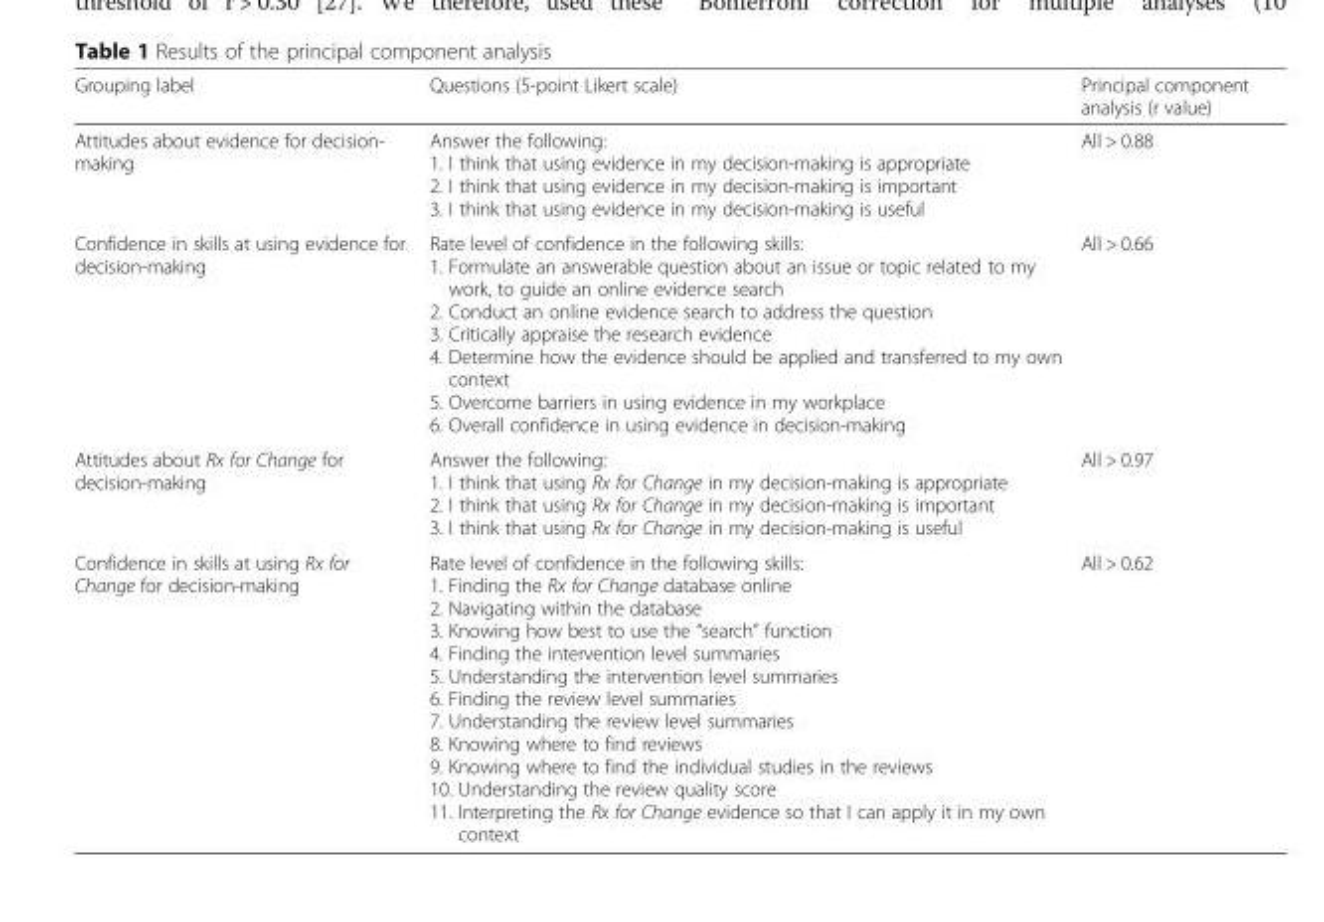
<table><thead><tr><td>Grouping label</td><td>Questions (5-point Likert scale)</td><td>Principal component analysis (r value)</td></tr></thead><tbody><tr><td>Attitudes about evidence for decision- making</td><td>Answer the following: 1. I think that using evidence in my decision-making is appropriate 2. I think that using evidence in my decision-making is important 3. I think that using evidence in my decision-making is useful</td><td>All &gt; 0.88</td></tr><tr><td>Confidence in skills at using evidence for decision-making</td><td>Rate level of confidence in the following skills: 1. Formulate an answerable question about an issue or topic related to my work, to guide an online evidence search 2. Conduct an online evidence search to address the question 3. Critically appraise the research evidence 4. Determine how the evidence should be applied and transferred to my own context 5. Overcome barriers in using evidence in my workplace 6. Overall confidence in using evidence in decision-making</td><td>All &gt; 0.66</td></tr><tr><td>Attitudes about Rx for Change for decision-making</td><td>Answer the following: 1. I think that using Rx for Change in my decision-making is appropriate 2. I think that using Rx for Change in my decision-making is important 3. I think that using Rx for Change in my decision-making is useful</td><td>All &gt; 0.97</td></tr><tr><td>Confidence in skills at using Rx for Change for decision-making</td><td>Rate level of confidence in the following skills: 1. Finding the Rx for Change database online 2. Navigating within the database 3. Knowing how best to use the “search” function 4. Finding the intervention level summaries 5. Understanding the intervention level summaries 6. Finding the review level summaries 7. Understanding the review level summaries 8. Knowing where to find reviews 9. Knowing where to find the individual studies in the reviews 10. Understanding the review quality score 11. Interpreting the Rx for Change evidence so that I can apply it in my own context</td><td>All &gt; 0.62</td></tr></tbody></table>